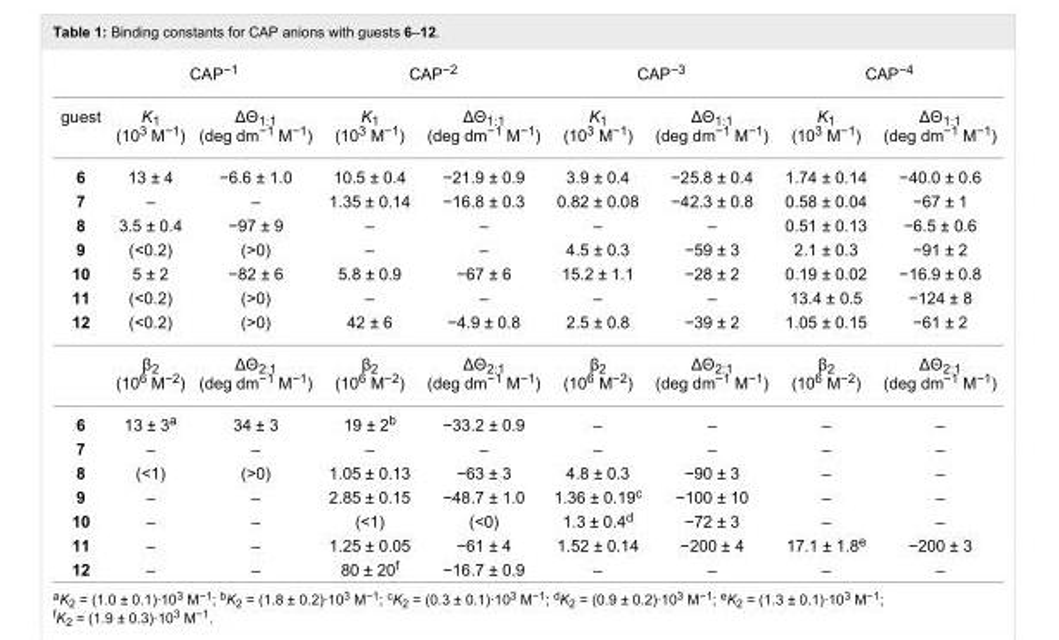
<table><thead><tr><td rowspan="2">guest</td><td colspan="2">CAP<sup>−1</sup></td><td colspan="2">CAP<sup>−2</sup></td><td colspan="2">CAP<sup>−3</sup></td><td colspan="2">CAP<sup>−4</sup></td></tr><tr><td>K<sub>1</sub> (10<sup>3</sup> M<sup>−1</sup>)</td><td>ΔΘ<sub>1:1</sub> (deg dm<sup>−1</sup> M<sup>−1</sup>)</td><td>K<sub>1</sub> (10<sup>3</sup> M<sup>−1</sup>)</td><td>ΔΘ<sub>1:1</sub> (deg dm<sup>−1</sup> M<sup>−1</sup>)</td><td>K<sub>1</sub> (10<sup>3</sup> M<sup>−1</sup>)</td><td>ΔΘ<sub>1:1</sub> (deg dm<sup>−1</sup> M<sup>−1</sup>)</td><td>K<sub>1</sub> (10<sup>3</sup> M<sup>−1</sup>)</td><td>ΔΘ<sub>1:1</sub> (deg dm<sup>−1</sup> M<sup>−1</sup>)</td></tr></thead><tbody><tr><td>6</td><td>13 ± 4</td><td>−6.6 ± 1.0</td><td>10.5 ± 0.4</td><td>−21.9 ± 0.9</td><td>3.9 ± 0.4</td><td>−25.8 ± 0.4</td><td>1.74 ± 0.14</td><td>−40.0 ± 0.6</td></tr><tr><td>7</td><td>–</td><td>–</td><td>1.35 ± 0.14</td><td>−16.8 ± 0.3</td><td>0.82 ± 0.08</td><td>−42.3 ± 0.8</td><td>0.58 ± 0.04</td><td>−67 ± 1</td></tr><tr><td>8</td><td>3.5 ± 0.4</td><td>−97 ± 9</td><td>–</td><td>–</td><td>–</td><td>–</td><td>0.51 ± 0.13</td><td>−6.5 ± 0.6</td></tr><tr><td>9</td><td>(&lt;0.2)</td><td>(&gt;0)</td><td>–</td><td>–</td><td>4.5 ± 0.3</td><td>−59 ± 3</td><td>2.1 ± 0.3</td><td>−91 ± 2</td></tr><tr><td>10</td><td>5 ± 2</td><td>−82 ± 6</td><td>5.8 ± 0.9</td><td>−67 ± 6</td><td>15.2 ± 1.1</td><td>−28 ± 2</td><td>0.19 ± 0.02</td><td>−16.9 ± 0.8</td></tr><tr><td>11</td><td>(&lt;0.2)</td><td>(&gt;0)</td><td>–</td><td>–</td><td>–</td><td>–</td><td>13.4 ± 0.5</td><td>−124 ± 8</td></tr><tr><td rowspan="2">12</td><td>(&lt;0.2)</td><td>(&gt;0)</td><td>42 ± 6</td><td>−4.9 ± 0.8</td><td>2.5 ± 0.8</td><td>−39 ± 2</td><td>1.05 ± 0.15</td><td>−61 ± 2</td></tr><tr><td>β<sub>2</sub> (10<sup>6</sup> M<sup>−2</sup>)</td><td>ΔΘ<sub>2:1</sub> (deg dm<sup>−1</sup> M<sup>−1</sup>)</td><td>β<sub>2</sub> (10<sup>6</sup> M<sup>−2</sup>)</td><td>ΔΘ<sub>2:1</sub> (deg dm<sup>−1</sup> M<sup>−1</sup>)</td><td>β<sub>2</sub> (10<sup>6</sup> M<sup>−2</sup>)</td><td>ΔΘ<sub>2:1</sub> (deg dm<sup>−1</sup> M<sup>−1</sup>)</td><td>β<sub>2</sub> (10<sup>6</sup> M<sup>−2</sup>)</td><td>ΔΘ<sub>2:1</sub> (deg dm<sup>−1</sup> M<sup>−1</sup>)</td></tr><tr><td>6</td><td>13 ± 3<sup>a</sup></td><td>34 ± 3</td><td>19 ± 2<sup>b</sup></td><td>−33.2 ± 0.9</td><td>–</td><td>–</td><td>–</td><td>–</td></tr><tr><td>7</td><td>–</td><td>–</td><td>–</td><td>–</td><td>–</td><td>–</td><td>–</td><td>–</td></tr><tr><td>8</td><td>(&lt;1)</td><td>(&gt;0)</td><td>1.05 ± 0.13</td><td>−63 ± 3</td><td>4.8 ± 0.3</td><td>−90 ± 3</td><td>–</td><td>–</td></tr><tr><td>9</td><td>–</td><td>–</td><td>2.85 ± 0.15</td><td>−48.7 ± 1.0</td><td>1.36 ± 0.19<sup>c</sup></td><td>−100 ± 10</td><td>–</td><td>–</td></tr><tr><td>10</td><td>–</td><td>–</td><td>(&lt;1)</td><td>(&lt;0)</td><td>1.3 ± 0.4<sup>d</sup></td><td>−72 ± 3</td><td>–</td><td>–</td></tr><tr><td>11</td><td>–</td><td>–</td><td>1.25 ± 0.05</td><td>−61 ± 4</td><td>1.52 ± 0.14</td><td>−200 ± 4</td><td>17.1 ± 1.8<sup>e</sup></td><td>−200 ± 3</td></tr><tr><td>12</td><td>–</td><td>–</td><td>80 ± 20<sup>f</sup></td><td>−16.7 ± 0.9</td><td>–</td><td>–</td><td>–</td><td>–</td></tr></tbody></table>